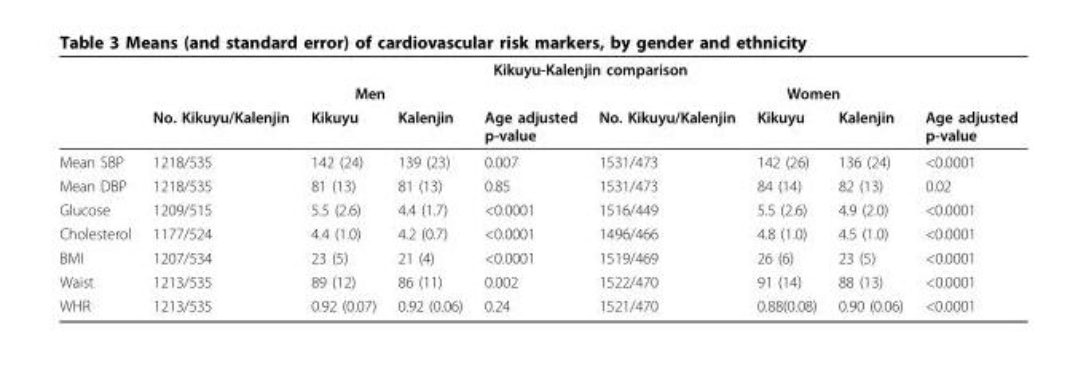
<table><thead><tr><td rowspan="3"></td><td colspan="8">Kikuyu-Kalenjin comparison</td></tr><tr><td colspan="4">Men</td><td colspan="4">Women</td></tr><tr><td>No. Kikuyu/Kalenjin</td><td>Kikuyu</td><td>Kalenjin</td><td>Age adjusted p-value</td><td>No. Kikuyu/Kalenjin</td><td>Kikuyu</td><td>Kalenjin</td><td>Age adjusted p-value</td></tr></thead><tbody><tr><td>Mean SBP</td><td>1218/535</td><td>142 (24)</td><td>139 (23)</td><td>0.007</td><td>1531/473</td><td>142 (26)</td><td>136 (24)</td><td>&lt;0.0001</td></tr><tr><td>Mean DBP</td><td>1218/535</td><td>81 (13)</td><td>81 (13)</td><td>0.85</td><td>1531/473</td><td>84 (14)</td><td>82 (13)</td><td>0.02</td></tr><tr><td>Glucose</td><td>1209/515</td><td>5.5 (2.6)</td><td>4.4 (1.7)</td><td>&lt;0.0001</td><td>1516/449</td><td>5.5 (2.6)</td><td>4.9 (2.0)</td><td>&lt;0.0001</td></tr><tr><td>Cholesterol</td><td>1177/524</td><td>4.4 (1.0)</td><td>4.2 (0.7)</td><td>&lt;0.0001</td><td>1496/466</td><td>4.8 (1.0)</td><td>4.5 (1.0)</td><td>&lt;0.0001</td></tr><tr><td>BMI</td><td>1207/534</td><td>23 (5)</td><td>21 (4)</td><td>&lt;0.0001</td><td>1519/469</td><td>26 (6)</td><td>23 (5)</td><td>&lt;0.0001</td></tr><tr><td>Waist</td><td>1213/535</td><td>89 (12)</td><td>86 (11)</td><td>0.002</td><td>1522/470</td><td>91 (14)</td><td>88 (13)</td><td>&lt;0.0001</td></tr><tr><td>WHR</td><td>1213/535</td><td>0.92 (0.07)</td><td>0.92 (0.06)</td><td>0.24</td><td>1521/470</td><td>0.88(0.08)</td><td>0.90 (0.06)</td><td>&lt;0.0001</td></tr></tbody></table>